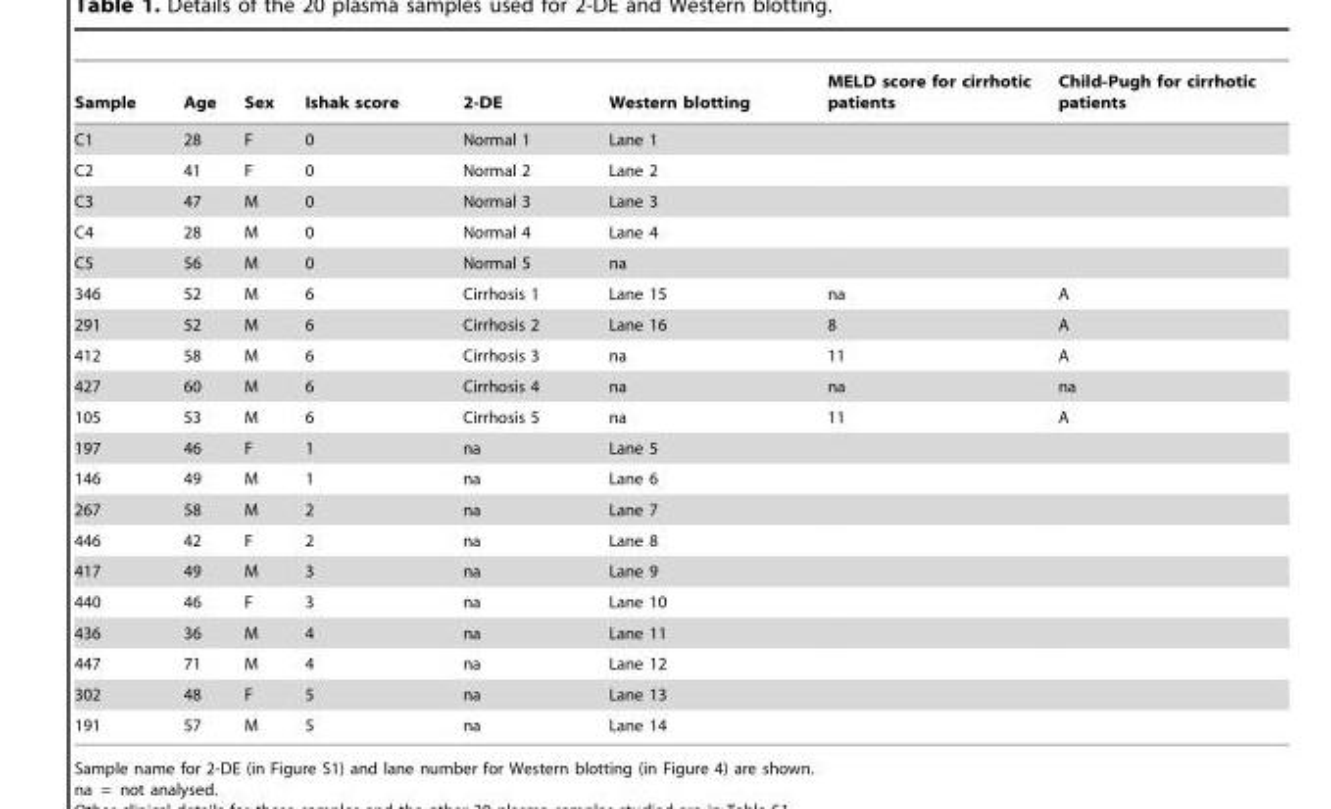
<table><thead><tr><td>Sample</td><td>Age</td><td>Sex</td><td>Ishak score</td><td>2-DE</td><td>Western blotting</td><td>MELD score for cirrhotic patients</td><td>Child-Pugh for cirrhotic patients</td></tr></thead><tbody><tr><td>C1</td><td>28</td><td>F</td><td>0</td><td>Normal 1</td><td>Lane 1</td><td></td><td></td></tr><tr><td>C2</td><td>41</td><td>F</td><td>0</td><td>Normal 2</td><td>Lane 2</td><td></td><td></td></tr><tr><td>C3</td><td>47</td><td>M</td><td>0</td><td>Normal 3</td><td>Lane 3</td><td></td><td></td></tr><tr><td>C4</td><td>28</td><td>M</td><td>0</td><td>Normal 4</td><td>Lane 4</td><td></td><td></td></tr><tr><td>C5</td><td>56</td><td>M</td><td>0</td><td>Normal 5</td><td>na</td><td></td><td></td></tr><tr><td>346</td><td>52</td><td>M</td><td>6</td><td>Cirrhosis 1</td><td>Lane 15</td><td>na</td><td>A</td></tr><tr><td>291</td><td>52</td><td>M</td><td>6</td><td>Cirrhosis 2</td><td>Lane 16</td><td>8</td><td>A</td></tr><tr><td>412</td><td>58</td><td>M</td><td>6</td><td>Cirrhosis 3</td><td>na</td><td>11</td><td>A</td></tr><tr><td>427</td><td>60</td><td>M</td><td>6</td><td>Cirrhosis 4</td><td>na</td><td>na</td><td>na</td></tr><tr><td>105</td><td>53</td><td>M</td><td>6</td><td>Cirrhosis 5</td><td>na</td><td>11</td><td>A</td></tr><tr><td>197</td><td>46</td><td>F</td><td>1</td><td>na</td><td>Lane 5</td><td></td><td></td></tr><tr><td>146</td><td>49</td><td>M</td><td>1</td><td>na</td><td>Lane 6</td><td></td><td></td></tr><tr><td>267</td><td>58</td><td>M</td><td>2</td><td>na</td><td>Lane 7</td><td></td><td></td></tr><tr><td>446</td><td>42</td><td>F</td><td>2</td><td>na</td><td>Lane 8</td><td></td><td></td></tr><tr><td>417</td><td>49</td><td>M</td><td>3</td><td>na</td><td>Lane 9</td><td></td><td></td></tr><tr><td>440</td><td>46</td><td>F</td><td>3</td><td>na</td><td>Lane 10</td><td></td><td></td></tr><tr><td>436</td><td>36</td><td>M</td><td>4</td><td>na</td><td>Lane 11</td><td></td><td></td></tr><tr><td>447</td><td>71</td><td>M</td><td>4</td><td>na</td><td>Lane 12</td><td></td><td></td></tr><tr><td>302</td><td>48</td><td>F</td><td>5</td><td>na</td><td>Lane 13</td><td></td><td></td></tr><tr><td>191</td><td>57</td><td>M</td><td>5</td><td>na</td><td>Lane 14</td><td></td><td></td></tr></tbody></table>